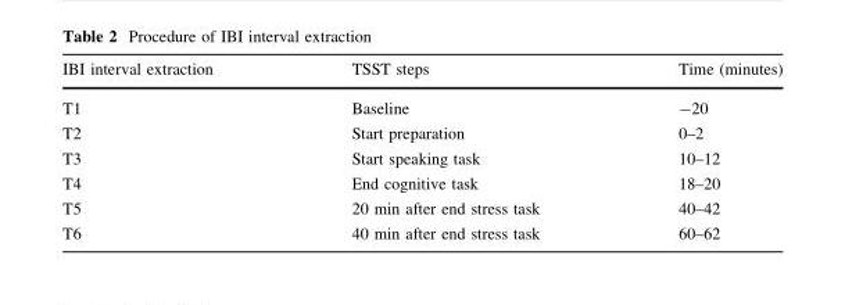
<table><thead><tr><td>IBI interval extraction</td><td>TSST steps</td><td>Time (minutes)</td></tr></thead><tbody><tr><td>T1</td><td>Baseline</td><td>-20</td></tr><tr><td>T2</td><td>Start preparation</td><td>0–2</td></tr><tr><td>T3</td><td>Start speaking task</td><td>10–12</td></tr><tr><td>T4</td><td>End cognitive task</td><td>18–20</td></tr><tr><td>T5</td><td>20 min after end stress task</td><td>40–42</td></tr><tr><td>T6</td><td>40 min after end stress task</td><td>60–62</td></tr></tbody></table>